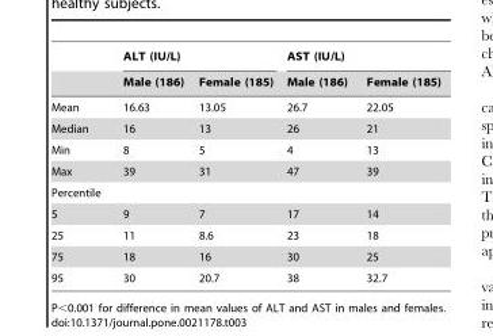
<table><thead><tr><td rowspan="2"></td><td colspan="2">ALT (IU/L)</td><td colspan="2">AST (IU/L)</td></tr><tr><td>Male (186)</td><td>Female (185)</td><td>Male (186)</td><td>Female (185)</td></tr></thead><tbody><tr><td>Mean</td><td>16.63</td><td>13.05</td><td>26.7</td><td>22.05</td></tr><tr><td>Median</td><td>16</td><td>13</td><td>26</td><td>21</td></tr><tr><td>Min</td><td>8</td><td>5</td><td>4</td><td>13</td></tr><tr><td>Max</td><td>39</td><td>31</td><td>47</td><td>39</td></tr><tr><td colspan="5">Percentile</td></tr><tr><td>5</td><td>9</td><td>7</td><td>17</td><td>14</td></tr><tr><td>25</td><td>11</td><td>8.6</td><td>23</td><td>18</td></tr><tr><td>75</td><td>18</td><td>16</td><td>30</td><td>25</td></tr><tr><td>95</td><td>30</td><td>20.7</td><td>38</td><td>32.7</td></tr></tbody></table>